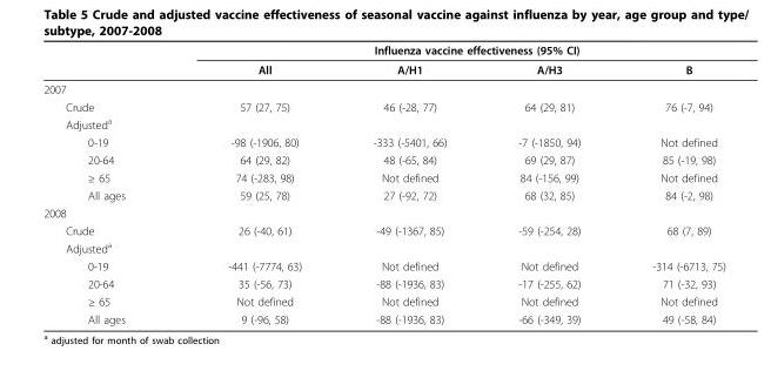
<table><thead><tr><td rowspan="2"></td><td colspan="4">Influenza vaccine effectiveness (95% CI)</td></tr><tr><td>All</td><td>A/H1</td><td>A/H3</td><td>B</td></tr></thead><tbody><tr><td colspan="5">2007</td></tr><tr><td>Crude</td><td>57 (27, 75)</td><td>46 (-28, 77)</td><td>64 (29, 81)</td><td>76 (-7, 94)</td></tr><tr><td colspan="5">Adjusted<sup>a</sup></td></tr><tr><td>0-19</td><td>-98 (-1906, 80)</td><td>-333 (-5401, 66)</td><td>-7 (-1850, 94)</td><td>Not defined</td></tr><tr><td>20-64</td><td>64 (29, 82)</td><td>48 (-65, 84)</td><td>69 (29, 87)</td><td>85 (-19, 98)</td></tr><tr><td>≥ 65</td><td>74 (-283, 98)</td><td>Not defined</td><td>84 (-156, 99)</td><td>Not defined</td></tr><tr><td>All ages</td><td>59 (25, 78)</td><td>27 (-92, 72)</td><td>68 (32, 85)</td><td>84 (-2, 98)</td></tr><tr><td colspan="5">2008</td></tr><tr><td>Crude</td><td>26 (-40, 61)</td><td>-49 (-1367, 85)</td><td>-59 (-254, 28)</td><td>68 (7, 89)</td></tr><tr><td colspan="5">Adjusted<sup>a</sup></td></tr><tr><td>0-19</td><td>-441 (-7774, 63)</td><td>Not defined</td><td>Not defined</td><td>-314 (-6713, 75)</td></tr><tr><td>20-64</td><td>35 (-56, 73)</td><td>-88 (-1936, 83)</td><td>-17 (-255, 62)</td><td>71 (-32, 93)</td></tr><tr><td>≥ 65</td><td>Not defined</td><td>Not defined</td><td>Not defined</td><td>Not defined</td></tr><tr><td>All ages</td><td>9 (-96, 58)</td><td>-88 (-1936, 83)</td><td>-66 (-349, 39)</td><td>49 (-58, 84)</td></tr></tbody></table>